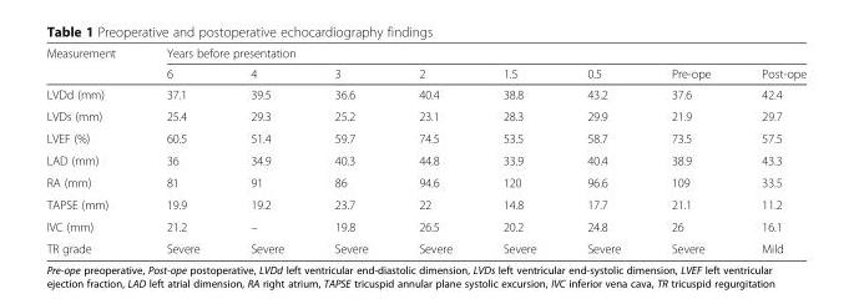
<table><thead><tr><td rowspan="2">Measurement</td><td colspan="8">Years before presentation</td></tr><tr><td>6</td><td>4</td><td>3</td><td>2</td><td>1.5</td><td>0.5</td><td>Pre-ope</td><td>Post-ope</td></tr></thead><tbody><tr><td>LVDd (mm)</td><td>37.1</td><td>39.5</td><td>36.6</td><td>40.4</td><td>38.8</td><td>43.2</td><td>37.6</td><td>42.4</td></tr><tr><td>LVDs (mm)</td><td>25.4</td><td>29.3</td><td>25.2</td><td>23.1</td><td>28.3</td><td>29.9</td><td>21.9</td><td>29.7</td></tr><tr><td>LVEF (%)</td><td>60.5</td><td>51.4</td><td>59.7</td><td>74.5</td><td>53.5</td><td>58.7</td><td>73.5</td><td>57.5</td></tr><tr><td>LAD (mm)</td><td>36</td><td>34.9</td><td>40.3</td><td>44.8</td><td>33.9</td><td>40.4</td><td>38.9</td><td>43.3</td></tr><tr><td>RA (mm)</td><td>81</td><td>91</td><td>86</td><td>94.6</td><td>120</td><td>96.6</td><td>109</td><td>33.5</td></tr><tr><td>TAPSE (mm)</td><td>19.9</td><td>19.2</td><td>23.7</td><td>22</td><td>14.8</td><td>17.7</td><td>21.1</td><td>11.2</td></tr><tr><td>IVC (mm)</td><td>21.2</td><td>–</td><td>19.8</td><td>26.5</td><td>20.2</td><td>24.8</td><td>26</td><td>16.1</td></tr><tr><td>TR grade</td><td>Severe</td><td>Severe</td><td>Severe</td><td>Severe</td><td>Severe</td><td>Severe</td><td>Severe</td><td>Mild</td></tr></tbody></table>